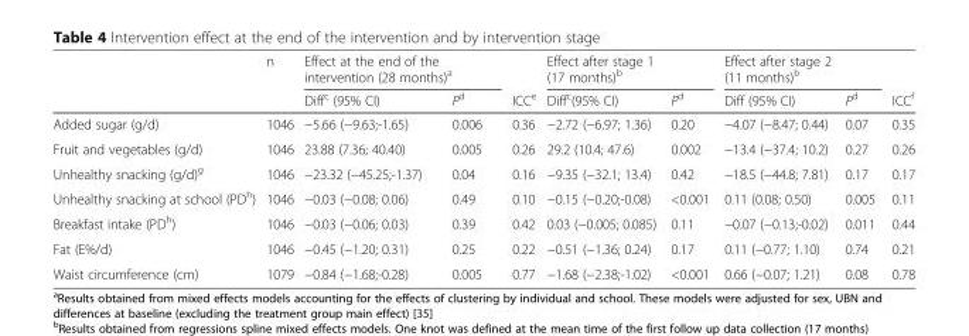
<table><thead><tr><td rowspan="2"></td><td rowspan="2">n</td><td colspan="2">Effect at the end of the intervention (28 months)<sup>a</sup></td><td rowspan="2">ICC<sup>e</sup></td><td colspan="2">Effect after stage 1 (17 months)<sup>b</sup></td><td colspan="2">Effect after stage 2 (11 months)<sup>b</sup></td><td rowspan="2">ICC<sup>f</sup></td></tr><tr><td>Diff<sup>c</sup> (95% CI)</td><td>P<sup>d</sup></td><td>Diff<sup>c</sup>(95% CI)</td><td>P<sup>d</sup></td><td>Diff (95% CI)</td><td>P<sup>d</sup></td></tr></thead><tbody><tr><td>Added sugar (g/d)</td><td>1046</td><td>−5.66 (−9.63;-1.65)</td><td>0.006</td><td>0.36</td><td>−2.72 (−6.97; 1.36)</td><td>0.20</td><td>−4.07 (−8.47; 0.44)</td><td>0.07</td><td>0.35</td></tr><tr><td>Fruit and vegetables (g/d)</td><td>1046</td><td>23.88 (7.36; 40.40)</td><td>0.005</td><td>0.26</td><td>29.2 (10.4; 47.6)</td><td>0.002</td><td>−13.4 (−37.4; 10.2)</td><td>0.27</td><td>0.26</td></tr><tr><td>Unhealthy snacking (g/d)<sup>g</sup></td><td>1046</td><td>−23.32 (−45.25;-1.37)</td><td>0.04</td><td>0.16</td><td>−9.35 (−32.1; 13.4)</td><td>0.42</td><td>−18.5 (−44.8; 7.81)</td><td>0.17</td><td>0.17</td></tr><tr><td>Unhealthy snacking at school (PD<sup>h</sup>)</td><td>1046</td><td>−0.03 (−0.08; 0.06)</td><td>0.49</td><td>0.10</td><td>−0.15 (−0.20;-0.08)</td><td>&lt;0.001</td><td>0.11 (0.08; 0.50)</td><td>0.005</td><td>0.11</td></tr><tr><td>Breakfast intake (PD<sup>h</sup>)</td><td>1046</td><td>−0.03 (−0.06; 0.03)</td><td>0.39</td><td>0.42</td><td>0.03 (−0.005; 0.085)</td><td>0.11</td><td>−0.07 (−0.13;-0.02)</td><td>0.011</td><td>0.44</td></tr><tr><td>Fat (E%/d)</td><td>1046</td><td>−0.45 (−1.20; 0.31)</td><td>0.25</td><td>0.22</td><td>−0.51 (−1.36; 0.24)</td><td>0.17</td><td>0.11 (−0.77; 1.10)</td><td>0.74</td><td>0.21</td></tr><tr><td>Waist circumference (cm)</td><td>1079</td><td>−0.84 (−1.68;-0.28)</td><td>0.005</td><td>0.77</td><td>−1.68 (−2.38;-1.02)</td><td>&lt;0.001</td><td>0.66 (−0.07; 1.21)</td><td>0.08</td><td>0.78</td></tr></tbody></table>